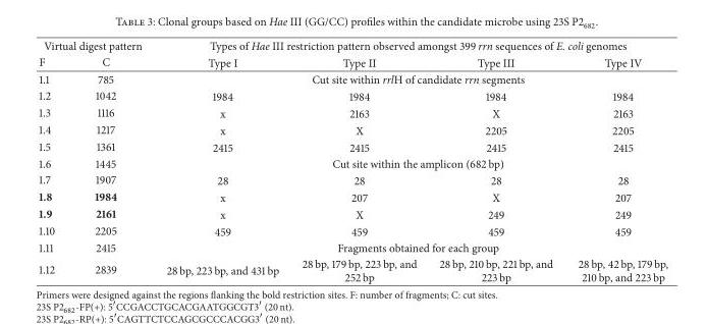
<table><thead><tr><td colspan="2">Virtual digest pattern</td><td colspan="4">Types of Hae III restriction pattern observed amongst 399 rrn sequences of E. coli genomes</td></tr><tr><td>F</td><td>C</td><td>Type I</td><td>Type II</td><td>Type III</td><td>Type IV</td></tr></thead><tbody><tr><td>1.1</td><td>785</td><td colspan="4">Cut site within rrlH of candidate rrn segments</td></tr><tr><td>1.2</td><td>1042</td><td>1984</td><td>1984</td><td>1984</td><td>1984</td></tr><tr><td>1.3</td><td>1116</td><td>x</td><td>2163</td><td>X</td><td>2163</td></tr><tr><td>1.4</td><td>1217</td><td>x</td><td>X</td><td>2205</td><td>2205</td></tr><tr><td>1.5</td><td>1361</td><td>2415</td><td>2415</td><td>2415</td><td>2415</td></tr><tr><td>1.6</td><td>1445</td><td colspan="4">Cut site within the amplicon (682 bp)</td></tr><tr><td>1.7</td><td>1907</td><td>28</td><td>28</td><td>28</td><td>28</td></tr><tr><td>1.8</td><td>1984</td><td>x</td><td>207</td><td>X</td><td>207</td></tr><tr><td>1.9</td><td>2161</td><td>x</td><td>X</td><td>249</td><td>249</td></tr><tr><td>1.10</td><td>2205</td><td>459</td><td>459</td><td>459</td><td>459</td></tr><tr><td>1.11</td><td>2415</td><td colspan="4">Fragments obtained for each group</td></tr><tr><td>1.12</td><td>2839</td><td>28 bp, 223 bp, and 431 bp</td><td>28 bp, 179 bp, 223 bp, and 252 bp</td><td>28 bp, 210 bp, 221 bp, and 223 bp</td><td>28 bp, 42 bp, 179 bp, 210 bp, and 223 bp</td></tr></tbody></table>